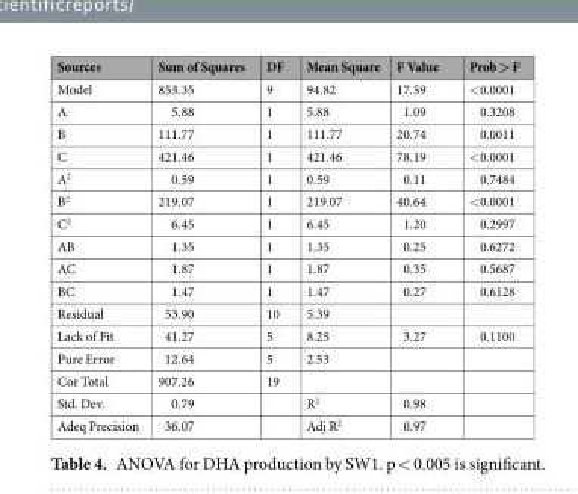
<table><thead><tr><td>Sources</td><td>Sum of Squares</td><td>DF</td><td>Mean Square</td><td>F Value</td><td>Prob &gt; F</td></tr></thead><tbody><tr><td>Model</td><td>853.35</td><td>9</td><td>94.82</td><td>17.59</td><td>&lt;0.0001</td></tr><tr><td>A</td><td>5.88</td><td>1</td><td>5.88</td><td>1.09</td><td>0.3208</td></tr><tr><td>B</td><td>111.77</td><td>1</td><td>111.77</td><td>20.74</td><td>0.0011</td></tr><tr><td>C</td><td>421.46</td><td>1</td><td>421.46</td><td>78.19</td><td>&lt;0.0001</td></tr><tr><td>A<sup>2</sup></td><td>0.59</td><td>1</td><td>0.59</td><td>0.11</td><td>0.7484</td></tr><tr><td>B<sup>2</sup></td><td>219.07</td><td>1</td><td>219.07</td><td>40.64</td><td>&lt;0.0001</td></tr><tr><td>C<sup>2</sup></td><td>6.45</td><td>1</td><td>6.45</td><td>1.20</td><td>0.2997</td></tr><tr><td>AB</td><td>1.35</td><td>1</td><td>1.35</td><td>0.25</td><td>0.6272</td></tr><tr><td>AC</td><td>1.87</td><td>1</td><td>1.87</td><td>0.35</td><td>0.5687</td></tr><tr><td>BC</td><td>1.47</td><td>1</td><td>1.47</td><td>0.27</td><td>0.6128</td></tr><tr><td>Residual</td><td>53.90</td><td>10</td><td>5.39</td><td></td><td></td></tr><tr><td>Lack of Fit</td><td>41.27</td><td>5</td><td>8.25</td><td>3.27</td><td>0.1100</td></tr><tr><td>Pure Error</td><td>12.64</td><td>5</td><td>2.53</td><td></td><td></td></tr><tr><td>Cor Total</td><td>907.26</td><td>19</td><td></td><td></td><td></td></tr><tr><td>Std. Dev.</td><td>0.79</td><td></td><td>R<sup>2</sup></td><td>0.98</td><td></td></tr><tr><td>Adeq Precision</td><td>36.07</td><td></td><td>Adj R<sup>2</sup></td><td>0.97</td><td></td></tr></tbody></table>